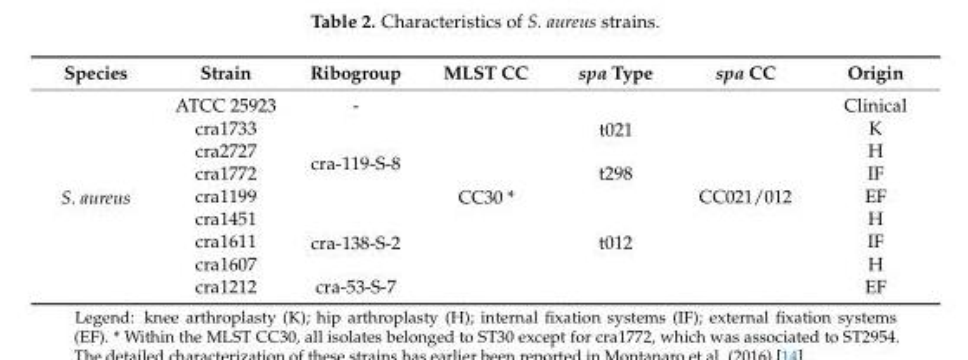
<table><thead><tr><td>Species</td><td>Strain</td><td>Ribogroup</td><td>MLST CC</td><td>spa Type</td><td>spa CC</td><td>Origin</td></tr></thead><tbody><tr><td rowspan="9">S. aureus</td><td>ATCC 25923</td><td>-</td><td rowspan="9">CC30 *</td><td rowspan="3">t021</td><td rowspan="9">CC021/012</td><td>Clinical</td></tr><tr><td>cra1733</td><td rowspan="4">cra-119-S-8</td><td>K</td></tr><tr><td>cra2727</td><td>H</td></tr><tr><td>cra1772</td><td>t298</td><td>IF</td></tr><tr><td>cra1199</td><td rowspan="5">t012</td><td>EF</td></tr><tr><td>cra1451</td><td rowspan="3">cra-138-S-2</td><td>H</td></tr><tr><td>cra1611</td><td>IF</td></tr><tr><td>cra1607</td><td>H</td></tr><tr><td>cra1212</td><td>cra-53-S-7</td><td>EF</td></tr></tbody></table>